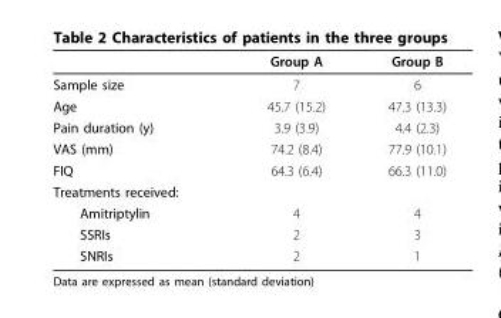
<table><thead><tr><td></td><td>Group A</td><td>Group B</td></tr></thead><tbody><tr><td>Sample size</td><td>7</td><td>6</td></tr><tr><td>Age</td><td>45.7 (15.2)</td><td>47.3 (13.3)</td></tr><tr><td>Pain duration (y)</td><td>3.9 (3.9)</td><td>4.4 (2.3)</td></tr><tr><td>VAS (mm)</td><td>74.2 (8.4)</td><td>77.9 (10.1)</td></tr><tr><td>FIQ</td><td>64.3 (6.4)</td><td>66.3 (11.0)</td></tr><tr><td colspan="3">Treatments received:</td></tr><tr><td>Amitriptylin</td><td>4</td><td>4</td></tr><tr><td>SSRIs</td><td>2</td><td>3</td></tr><tr><td>SNRIs</td><td>2</td><td>1</td></tr></tbody></table>